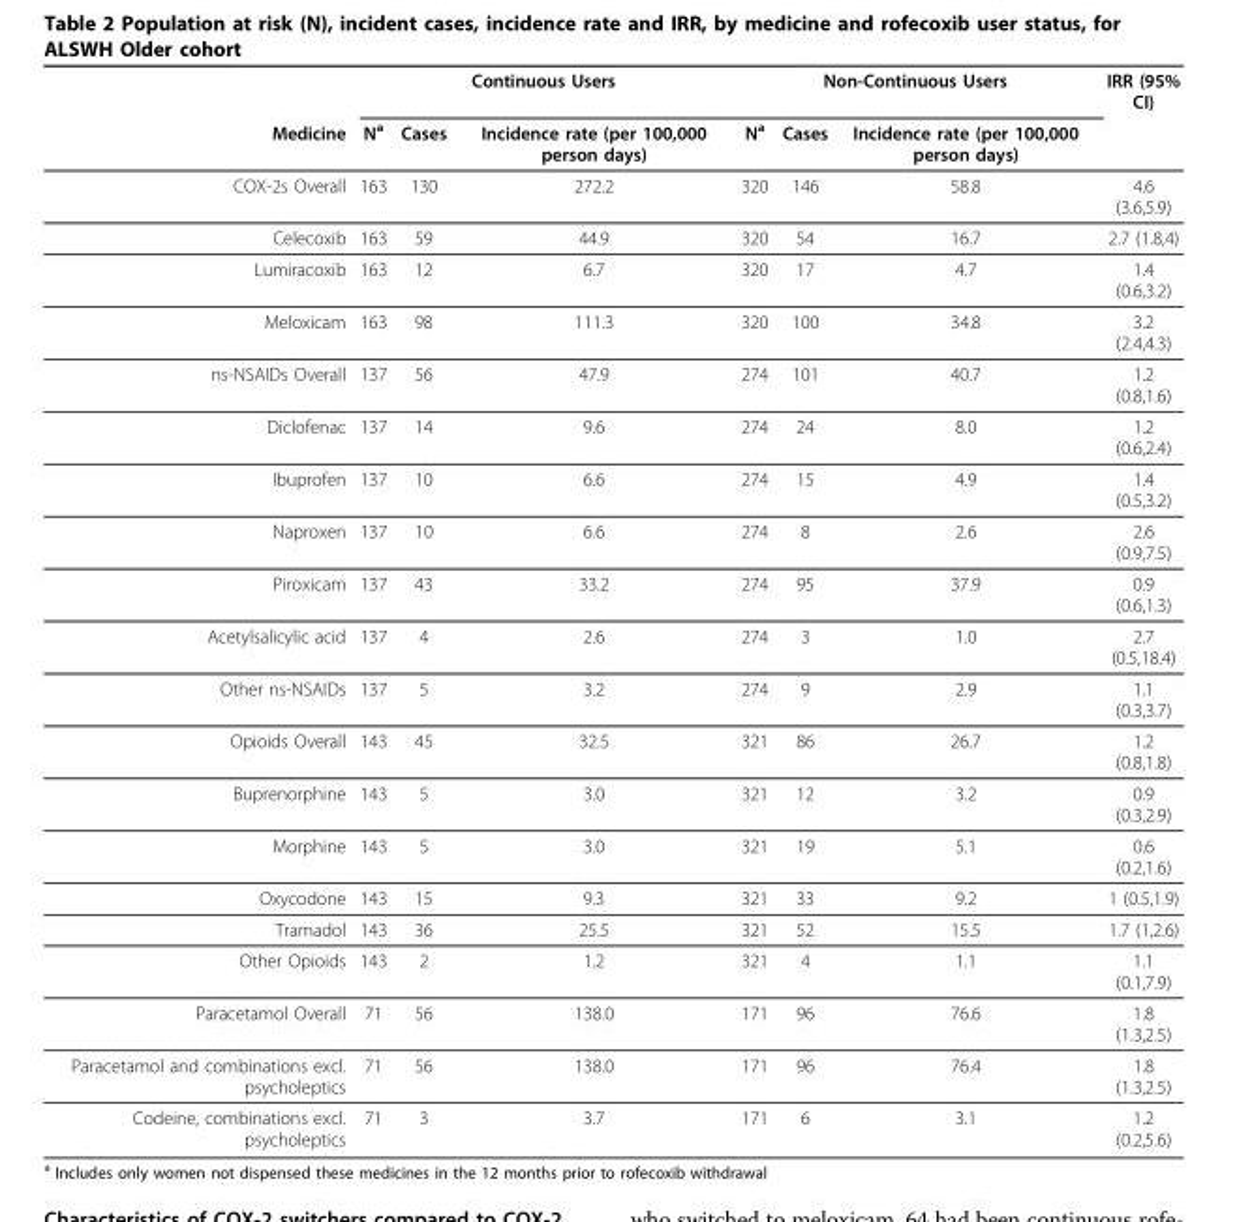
<table><thead><tr><td rowspan="2">Medicine</td><td colspan="3">Continuous Users</td><td colspan="3">Non-Continuous Users</td><td rowspan="2">IRR (95% CI)</td></tr><tr><td>N<sup>a</sup></td><td>Cases</td><td>Incidence rate (per 100,000 person days)</td><td>N<sup>a</sup></td><td>Cases</td><td>Incidence rate (per 100,000 person days)</td></tr></thead><tbody><tr><td>COX-2s Overall</td><td>163</td><td>130</td><td>272.2</td><td>320</td><td>146</td><td>58.8</td><td>4.6 (3.6,5.9)</td></tr><tr><td>Celecoxib</td><td>163</td><td>59</td><td>44.9</td><td>320</td><td>54</td><td>16.7</td><td>2.7 (1.8,4)</td></tr><tr><td>Lumiracoxib</td><td>163</td><td>12</td><td>6.7</td><td>320</td><td>17</td><td>4.7</td><td>1.4 (0.6,3.2)</td></tr><tr><td>Meloxicam</td><td>163</td><td>98</td><td>111.3</td><td>320</td><td>100</td><td>34.8</td><td>3.2 (2.4,4.3)</td></tr><tr><td>ns-NSAIDs Overall</td><td>137</td><td>56</td><td>47.9</td><td>274</td><td>101</td><td>40.7</td><td>1.2 (0.8,1.6)</td></tr><tr><td>Diclofenac</td><td>137</td><td>14</td><td>9.6</td><td>274</td><td>24</td><td>8.0</td><td>1.2 (0.6,2.4)</td></tr><tr><td>Ibuprofen</td><td>137</td><td>10</td><td>6.6</td><td>274</td><td>15</td><td>4.9</td><td>1.4 (0.5,3.2)</td></tr><tr><td>Naproxen</td><td>137</td><td>10</td><td>6.6</td><td>274</td><td>8</td><td>2.6</td><td>2.6 (0.9,7.5)</td></tr><tr><td>Piroxicam</td><td>137</td><td>43</td><td>33.2</td><td>274</td><td>95</td><td>37.9</td><td>0.9 (0.6,1.3)</td></tr><tr><td>Acetylsalicylic acid</td><td>137</td><td>4</td><td>2.6</td><td>274</td><td>3</td><td>1.0</td><td>2.7 (0.5,18.4)</td></tr><tr><td>Other ns-NSAIDs</td><td>137</td><td>5</td><td>3.2</td><td>274</td><td>9</td><td>2.9</td><td>1.1 (0.3,3.7)</td></tr><tr><td>Opioids Overall</td><td>143</td><td>45</td><td>32.5</td><td>321</td><td>86</td><td>26.7</td><td>1.2 (0.8,1.8)</td></tr><tr><td>Buprenorphine</td><td>143</td><td>5</td><td>3.0</td><td>321</td><td>12</td><td>3.2</td><td>0.9 (0.3,2.9)</td></tr><tr><td>Morphine</td><td>143</td><td>5</td><td>3.0</td><td>321</td><td>19</td><td>5.1</td><td>0.6 (0.2,1.6)</td></tr><tr><td>Oxycodone</td><td>143</td><td>15</td><td>9.3</td><td>321</td><td>33</td><td>9.2</td><td>1 (0.5,1.9)</td></tr><tr><td>Tramadol</td><td>143</td><td>36</td><td>25.5</td><td>321</td><td>52</td><td>15.5</td><td>1.7 (1,2.6)</td></tr><tr><td>Other Opioids</td><td>143</td><td>2</td><td>1.2</td><td>321</td><td>4</td><td>1.1</td><td>1.1 (0.1,7.9)</td></tr><tr><td>Paracetamol Overall</td><td>71</td><td>56</td><td>138.0</td><td>171</td><td>96</td><td>76.6</td><td>1.8 (1.3,2.5)</td></tr><tr><td>Paracetamol and combinations excl. psycholeptics</td><td>71</td><td>56</td><td>138.0</td><td>171</td><td>96</td><td>76.4</td><td>1.8 (1.3,2.5)</td></tr><tr><td>Codeine, combinations excl. psycholeptics</td><td>71</td><td>3</td><td>3.7</td><td>171</td><td>6</td><td>3.1</td><td>1.2 (0.2,5.6)</td></tr></tbody></table>